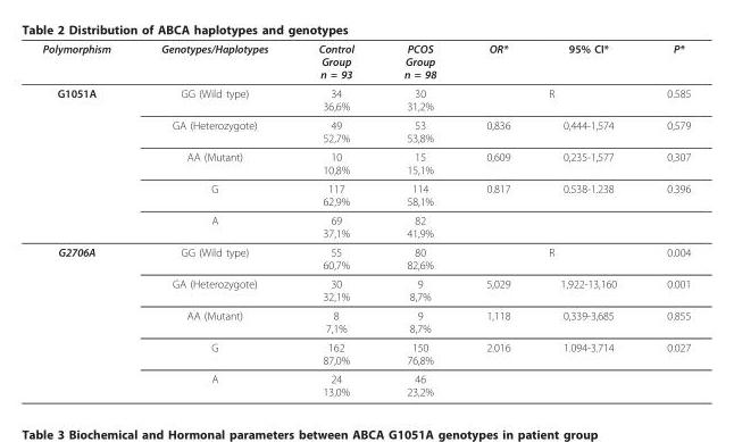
<table><thead><tr><td>Polymorphism</td><td>Genotypes/Haplotypes</td><td>Control Group n = 93</td><td>PCOS Group n = 98</td><td>OR*</td><td>95% CI*</td><td>P*</td></tr></thead><tbody><tr><td rowspan="5">G1051A</td><td>GG (Wild type)</td><td>34 36,6%</td><td>30 31,2%</td><td colspan="2">R</td><td>0.585</td></tr><tr><td>GA (Heterozygote)</td><td>49 52,7%</td><td>53 53,8%</td><td>0,836</td><td>0,444-1,574</td><td>0,579</td></tr><tr><td>AA (Mutant)</td><td>10 10,8%</td><td>15 15,1%</td><td>0,609</td><td>0,235-1,577</td><td>0,307</td></tr><tr><td>G</td><td>117 62,9%</td><td>114 58,1%</td><td>0.817</td><td>0.538-1.238</td><td>0.396</td></tr><tr><td>A</td><td>69 37,1%</td><td>82 41,9%</td><td></td><td></td><td></td></tr><tr><td rowspan="5">G2706A</td><td>GG (Wild type)</td><td>55 60,7%</td><td>80 82,6%</td><td colspan="2">R</td><td>0.004</td></tr><tr><td>GA (Heterozygote)</td><td>30 32,1%</td><td>9 8,7%</td><td>5,029</td><td>1,922-13,160</td><td>0.001</td></tr><tr><td>AA (Mutant)</td><td>8 7,1%</td><td>9 8,7%</td><td>1,118</td><td>0,339-3,685</td><td>0.855</td></tr><tr><td>G</td><td>162 87,0%</td><td>150 76,8%</td><td>2.016</td><td>1.094-3.714</td><td>0.027</td></tr><tr><td>A</td><td>24 13,0%</td><td>46 23,2%</td><td></td><td></td><td></td></tr></tbody></table>